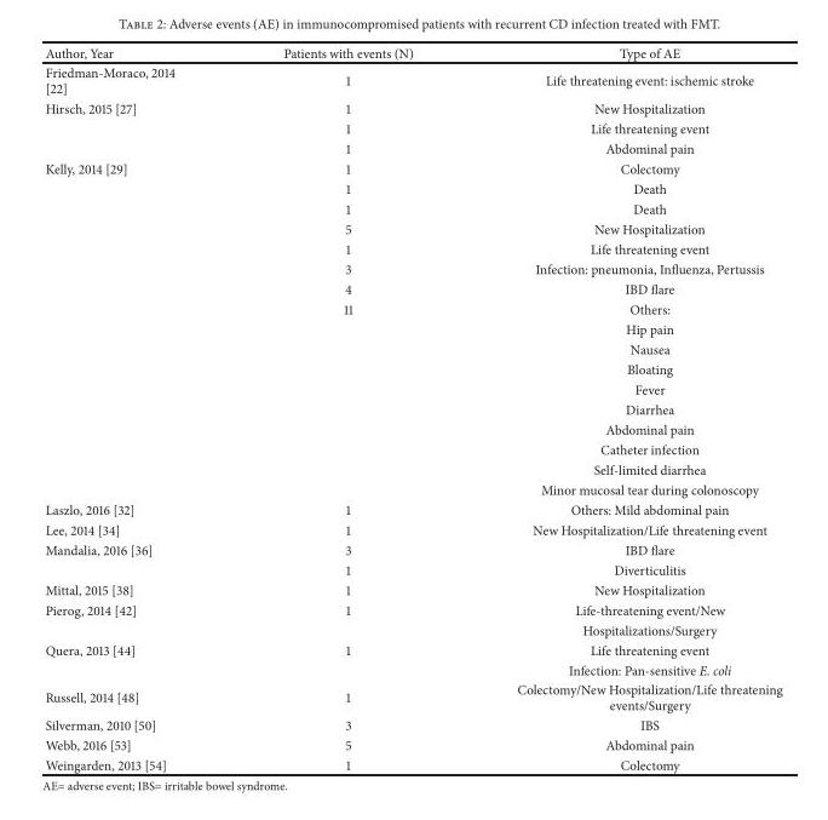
<table><thead><tr><td>Author, Year</td><td>Patients with events (N)</td><td>Type of AE</td></tr></thead><tbody><tr><td>Friedman-Moraco, 2014 [22]</td><td>1</td><td>Life threatening event: ischemic stroke</td></tr><tr><td rowspan="3">Hirsch, 2015 [27]</td><td>1</td><td>New Hospitalization</td></tr><tr><td>1</td><td>Life threatening event</td></tr><tr><td>1</td><td>Abdominal pain</td></tr><tr><td rowspan="17">Kelly, 2014 [29]</td><td>1</td><td>Colectomy</td></tr><tr><td>1</td><td>Death</td></tr><tr><td>1</td><td>Death</td></tr><tr><td>5</td><td>New Hospitalization</td></tr><tr><td>1</td><td>Life threatening event</td></tr><tr><td>3</td><td>Infection: pneumonia, Influenza, Pertussis</td></tr><tr><td>4</td><td>IBD flare</td></tr><tr><td>11</td><td>Others:</td></tr><tr><td></td><td>Hip pain</td></tr><tr><td></td><td>Nausea</td></tr><tr><td></td><td>Bloating</td></tr><tr><td></td><td>Fever</td></tr><tr><td></td><td>Diarrhea</td></tr><tr><td></td><td>Abdominal pain</td></tr><tr><td></td><td>Catheter infection</td></tr><tr><td></td><td>Self-limited diarrhea</td></tr><tr><td></td><td>Minor mucosal tear during colonoscopy</td></tr><tr><td>Laszlo, 2016 [32]</td><td>1</td><td>Others: Mild abdominal pain</td></tr><tr><td>Lee, 2014 [34]</td><td>1</td><td>New Hospitalization/Life threatening event</td></tr><tr><td rowspan="2">Mandalia, 2016 [36]</td><td>3</td><td>IBD flare</td></tr><tr><td>1</td><td>Diverticulitis</td></tr><tr><td>Mittal, 2015 [38]</td><td>1</td><td>New Hospitalization</td></tr><tr><td rowspan="2">Pierog, 2014 [42]</td><td>1</td><td>Life-threatening event/New</td></tr><tr><td></td><td>Hospitalizations/Surgery</td></tr><tr><td rowspan="2">Quera, 2013 [44]</td><td>1</td><td>Life threatening event</td></tr><tr><td></td><td>Infection: Pan-sensitive E. coli</td></tr><tr><td>Russell, 2014 [48]</td><td>1</td><td>Colectomy/New Hospitalization/Life threatening events/Surgery</td></tr><tr><td>Silverman, 2010 [50]</td><td>3</td><td>IBS</td></tr><tr><td>Webb, 2016 [53]</td><td>5</td><td>Abdominal pain</td></tr><tr><td>Weingarden, 2013 [54]</td><td>1</td><td>Colectomy</td></tr></tbody></table>